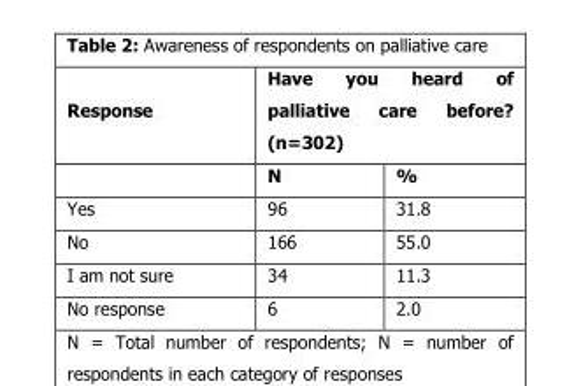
<table><thead><tr><td rowspan="2">Response</td><td colspan="2">Have you heard of palliative care before? (n=302)</td></tr><tr><td>N</td><td>%</td></tr></thead><tbody><tr><td>Yes</td><td>96</td><td>31.8</td></tr><tr><td>No</td><td>166</td><td>55.0</td></tr><tr><td>I am not sure</td><td>34</td><td>11.3</td></tr><tr><td>No response</td><td>6</td><td>2.0</td></tr></tbody></table>